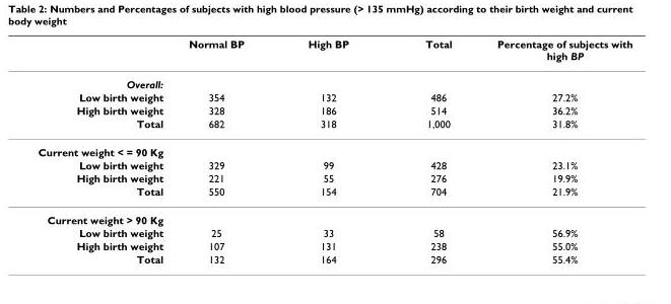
<table><thead><tr><td></td><td>Normal BP</td><td>High BP</td><td>Total</td><td>Percentage of subjects with high BP</td></tr></thead><tbody><tr><td colspan="5">Overall:</td></tr><tr><td>Low birth weight</td><td>354</td><td>132</td><td>486</td><td>27.2%</td></tr><tr><td>High birth weight</td><td>328</td><td>186</td><td>514</td><td>36.2%</td></tr><tr><td>Total</td><td>682</td><td>318</td><td>1,000</td><td>31.8%</td></tr><tr><td colspan="5">Current weight &lt; = 90 Kg</td></tr><tr><td>Low birth weight</td><td>329</td><td>99</td><td>428</td><td>23.1%</td></tr><tr><td>High birth weight</td><td>221</td><td>55</td><td>276</td><td>19.9%</td></tr><tr><td>Total</td><td>550</td><td>154</td><td>704</td><td>21.9%</td></tr><tr><td colspan="5">Current weight &gt; 90 Kg</td></tr><tr><td>Low birth weight</td><td>25</td><td>33</td><td>58</td><td>56.9%</td></tr><tr><td>High birth weight</td><td>107</td><td>131</td><td>238</td><td>55.0%</td></tr><tr><td>Total</td><td>132</td><td>164</td><td>296</td><td>55.4%</td></tr></tbody></table>